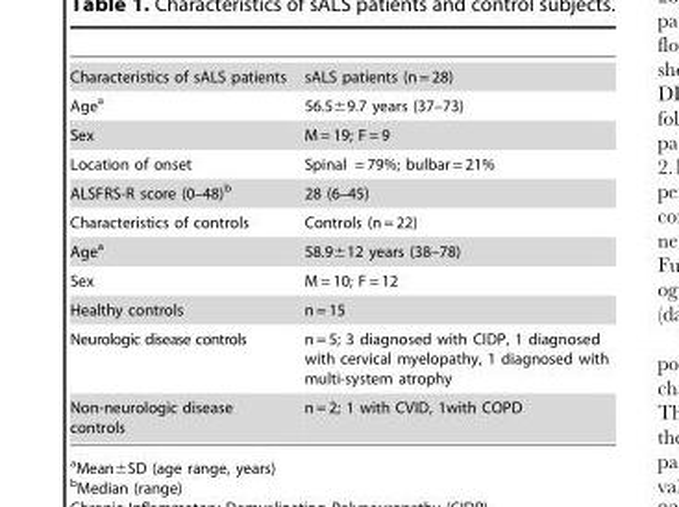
<table><tbody><tr><td>Characteristics of sALS patients</td><td>sALS patients (n = 28)</td></tr><tr><td>Age<sup>a</sup></td><td>56.5±9.7 years (37–73)</td></tr><tr><td>Sex</td><td>M = 19; F = 9</td></tr><tr><td>Location of onset</td><td>Spinal = 79%; bulbar = 21%</td></tr><tr><td>ALSFRS-R score (0–48)<sup>b</sup></td><td>28 (6–45)</td></tr><tr><td>Characteristics of controls</td><td>Controls (n = 22)</td></tr><tr><td>Age<sup>a</sup></td><td>58.9±12 years (38–78)</td></tr><tr><td>Sex</td><td>M = 10; F = 12</td></tr><tr><td>Healthy controls</td><td>n = 15</td></tr><tr><td>Neurologic disease controls</td><td>n = 5; 3 diagnosed with CIDP, 1 diagnosed with cervical myelopathy, 1 diagnosed with multi-system atrophy</td></tr><tr><td>Non-neurologic disease controls</td><td>n = 2; 1 with CVID, 1with COPD</td></tr></tbody></table>